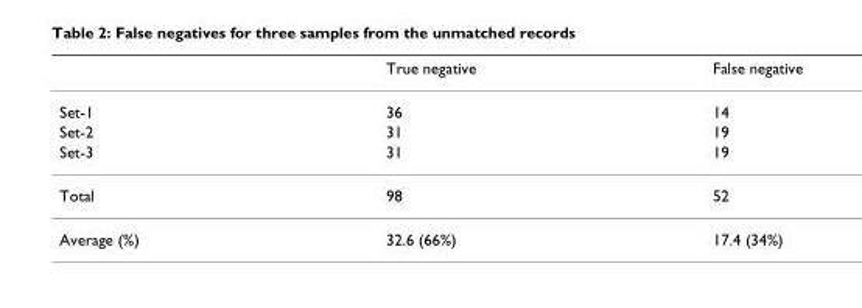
<table><thead><tr><td></td><td>True negative</td><td>False negative</td></tr></thead><tbody><tr><td>Set-1</td><td>36</td><td>14</td></tr><tr><td>Set-2</td><td>31</td><td>19</td></tr><tr><td>Set-3</td><td>31</td><td>19</td></tr><tr><td>Total</td><td>98</td><td>52</td></tr><tr><td>Average (%)</td><td>32.6 (66%)</td><td>17.4 (34%)</td></tr></tbody></table>